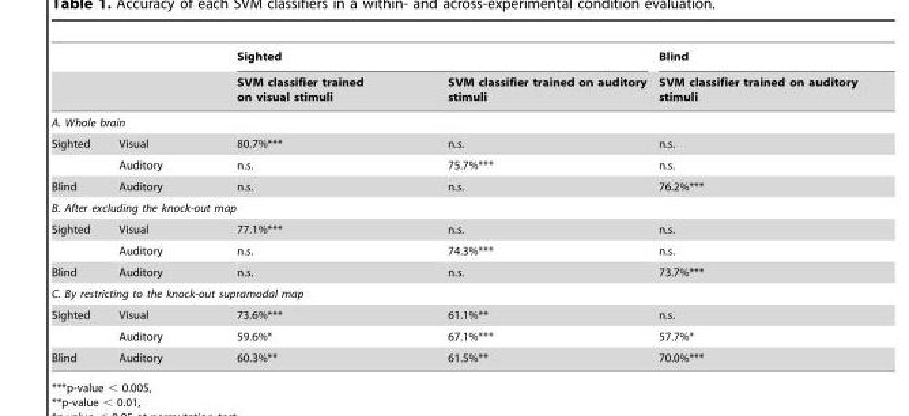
<table><thead><tr><td rowspan="2"></td><td rowspan="2"></td><td colspan="2">Sighted</td><td rowspan="2">Blind SVM classifier trained on auditory stimuli</td></tr><tr><td>SVM classifier trained on visual stimuli</td><td>SVM classifier trained on auditory stimuli</td></tr></thead><tbody><tr><td colspan="5">A. Whole brain</td></tr><tr><td rowspan="2">Sighted</td><td>Visual</td><td>80.7%***</td><td>n.s.</td><td>n.s.</td></tr><tr><td>Auditory</td><td>n.s.</td><td>75.7%***</td><td>n.s.</td></tr><tr><td>Blind</td><td>Auditory</td><td>n.s.</td><td>n.s.</td><td>76.2%***</td></tr><tr><td colspan="5">B. After excluding the knock-out map</td></tr><tr><td rowspan="2">Sighted</td><td>Visual</td><td>77.1%***</td><td>n.s.</td><td>n.s.</td></tr><tr><td>Auditory</td><td>n.s.</td><td>74.3%***</td><td>n.s.</td></tr><tr><td>Blind</td><td>Auditory</td><td>n.s.</td><td>n.s.</td><td>73.7%***</td></tr><tr><td colspan="5">C. By restricting to the knock-out supramodal map</td></tr><tr><td rowspan="2">Sighted</td><td>Visual</td><td>73.6%***</td><td>61.1%**</td><td>n.s.</td></tr><tr><td>Auditory</td><td>59.6%*</td><td>67.1%***</td><td>57.7%*</td></tr><tr><td>Blind</td><td>Auditory</td><td>60.3%**</td><td>61.5%**</td><td>70.0%***</td></tr></tbody></table>